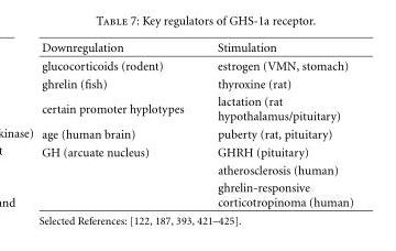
<table><thead><tr><td>Downregulation</td><td>Stimulation</td></tr></thead><tbody><tr><td>glucocorticoids (rodent)</td><td>estrogen (VMN, stomach)</td></tr><tr><td>ghrelin (fish)</td><td>thyroxine (rat)</td></tr><tr><td>certain promoter hyplotypes</td><td>lactation (rat hypothalamus/pituitary)</td></tr><tr><td>age (human brain)</td><td>puberty (rat, pituitary)</td></tr><tr><td rowspan="3">GH (arcuate nucleus)</td><td>GHRH (pituitary)</td></tr><tr><td>atherosclerosis (human)</td></tr><tr><td>ghrelin-responsive corticotropinoma (human)</td></tr></tbody></table>